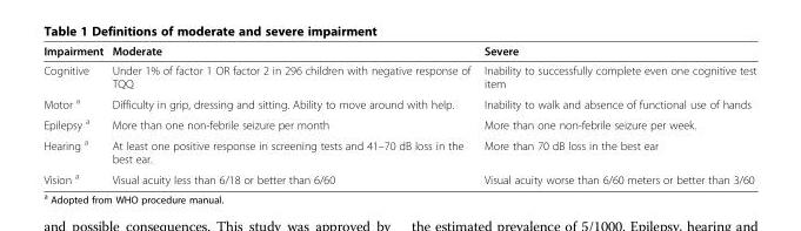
<table><thead><tr><td>Impairment</td><td>Moderate</td><td>Severe</td></tr></thead><tbody><tr><td>Cognitive</td><td>Under 1% of factor 1 OR factor 2 in 296 children with negative response of TQQ</td><td>Inability to successfully complete even one cognitive test item</td></tr><tr><td>Motor <sup>a</sup></td><td>Difficulty in grip, dressing and sitting. Ability to move around with help.</td><td>Inability to walk and absence of functional use of hands</td></tr><tr><td>Epilepsy <sup>a</sup></td><td>More than one non-febrile seizure per month</td><td>More than one non-febrile seizure per week.</td></tr><tr><td>Hearing <sup>a</sup></td><td>At least one positive response in screening tests and 41–70 dB loss in the best ear.</td><td>More than 70 dB loss in the best ear</td></tr><tr><td>Vision <sup>a</sup></td><td>Visual acuity less than 6/18 or better than 6/60</td><td>Visual acuity worse than 6/60 meters or better than 3/60</td></tr></tbody></table>